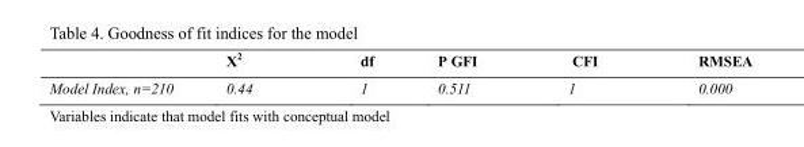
<table><thead><tr><td></td><td>X<sup>2</sup></td><td>df</td><td>P GFI</td><td>CFI</td><td>RMSEA</td></tr></thead><tbody><tr><td>Model Index, n=210</td><td>0.44</td><td>1</td><td>0.511</td><td>1</td><td>0.000</td></tr></tbody></table>